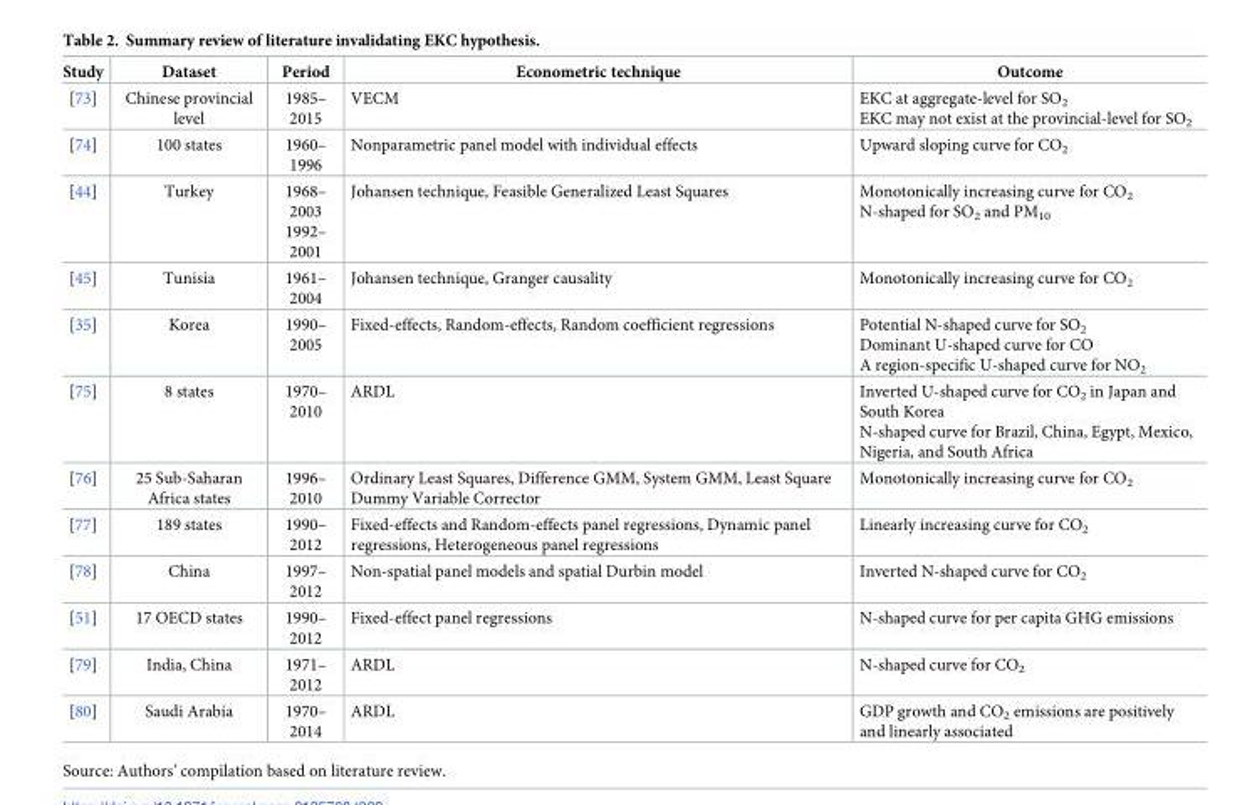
<table><thead><tr><td>Study</td><td>Dataset</td><td>Period</td><td>Econometric technique</td><td>Outcome</td></tr></thead><tbody><tr><td>[73]</td><td>Chinese provincial level</td><td>1985– 2015</td><td>VECM</td><td>EKC at aggregate-level for SO<sub>2</sub> EKC may not exist at the provincial-level for SO<sub>2</sub></td></tr><tr><td>[74]</td><td>100 states</td><td>1960– 1996</td><td>Nonparametric panel model with individual effects</td><td>Upward sloping curve for CO<sub>2</sub></td></tr><tr><td>[44]</td><td>Turkey</td><td>1968– 2003 1992– 2001</td><td>Johansen technique, Feasible Generalized Least Squares</td><td>Monotonically increasing curve for CO<sub>2</sub> N-shaped for SO<sub>2</sub> and PM<sub>10</sub></td></tr><tr><td>[45]</td><td>Tunisia</td><td>1961– 2004</td><td>Johansen technique, Granger causality</td><td>Monotonically increasing curve for CO<sub>2</sub></td></tr><tr><td>[35]</td><td>Korea</td><td>1990– 2005</td><td>Fixed-effects, Random-effects, Random coefficient regressions</td><td>Potential N-shaped curve for SO<sub>2</sub> Dominant U-shaped curve for CO A region-specific U-shaped curve for NO<sub>2</sub></td></tr><tr><td>[75]</td><td>8 states</td><td>1970– 2010</td><td>ARDL</td><td>Inverted U-shaped curve for CO<sub>2</sub> in Japan and South Korea N-shaped curve for Brazil, China, Egypt, Mexico, Nigeria, and South Africa</td></tr><tr><td>[76]</td><td>25 Sub-Saharan Africa states</td><td>1996– 2010</td><td>Ordinary Least Squares, Difference GMM, System GMM, Least Square Dummy Variable Corrector</td><td>Monotonically increasing curve for CO<sub>2</sub></td></tr><tr><td>[77]</td><td>189 states</td><td>1990– 2012</td><td>Fixed-effects and Random-effects panel regressions, Dynamic panel regressions, Heterogeneous panel regressions</td><td>Linearly increasing curve for CO<sub>2</sub></td></tr><tr><td>[78]</td><td>China</td><td>1997– 2012</td><td>Non-spatial panel models and spatial Durbin model</td><td>Inverted N-shaped curve for CO<sub>2</sub></td></tr><tr><td>[51]</td><td>17 OECD states</td><td>1990– 2012</td><td>Fixed-effect panel regressions</td><td>N-shaped curve for per capita GHG emissions</td></tr><tr><td>[79]</td><td>India, China</td><td>1971– 2012</td><td>ARDL</td><td>N-shaped curve for CO<sub>2</sub></td></tr><tr><td>[80]</td><td>Saudi Arabia</td><td>1970– 2014</td><td>ARDL</td><td>GDP growth and CO<sub>2</sub> emissions are positively and linearly associated</td></tr></tbody></table>